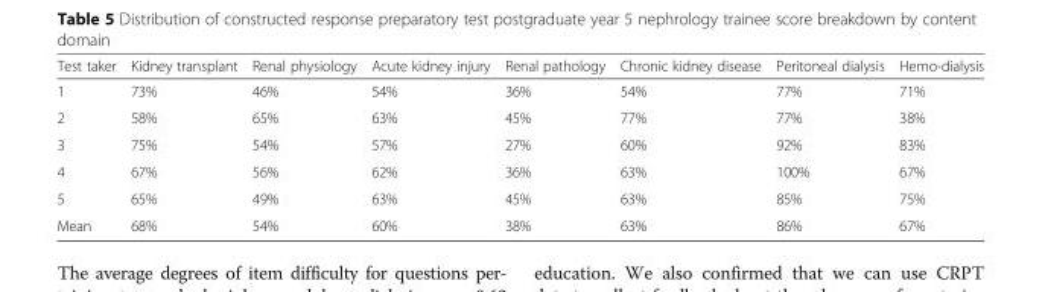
<table><thead><tr><td>Test taker</td><td>Kidney transplant</td><td>Renal physiology</td><td>Acute kidney injury</td><td>Renal pathology</td><td>Chronic kidney disease</td><td>Peritoneal dialysis</td><td>Hemo-dialysis</td></tr></thead><tbody><tr><td>1</td><td>73%</td><td>46%</td><td>54%</td><td>36%</td><td>54%</td><td>77%</td><td>71%</td></tr><tr><td>2</td><td>58%</td><td>65%</td><td>63%</td><td>45%</td><td>77%</td><td>77%</td><td>38%</td></tr><tr><td>3</td><td>75%</td><td>54%</td><td>57%</td><td>27%</td><td>60%</td><td>92%</td><td>83%</td></tr><tr><td>4</td><td>67%</td><td>56%</td><td>62%</td><td>36%</td><td>63%</td><td>100%</td><td>67%</td></tr><tr><td>5</td><td>65%</td><td>49%</td><td>63%</td><td>45%</td><td>63%</td><td>85%</td><td>75%</td></tr><tr><td>Mean</td><td>68%</td><td>54%</td><td>60%</td><td>38%</td><td>63%</td><td>86%</td><td>67%</td></tr></tbody></table>